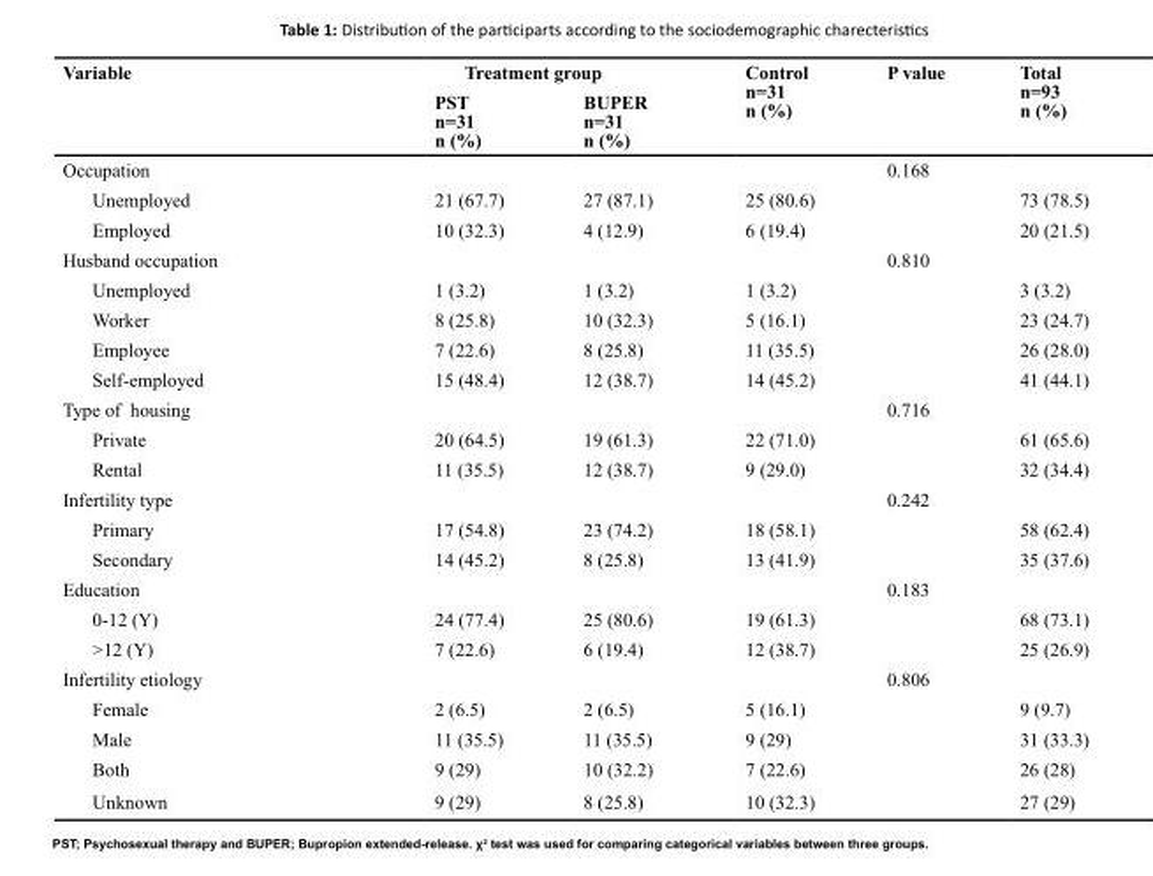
<table><thead><tr><td rowspan="2">Variable</td><td colspan="2">Treatment group</td><td rowspan="2">Control n=31 n (%)</td><td rowspan="2">P value</td><td rowspan="2">Total n=93 n (%)</td></tr><tr><td>PST n=31 n (%)</td><td>BUPER n=31 n (%)</td></tr></thead><tbody><tr><td>Occupation</td><td></td><td></td><td></td><td>0.168</td><td></td></tr><tr><td>Unemployed</td><td>21 (67.7)</td><td>27 (87.1)</td><td>25 (80.6)</td><td></td><td>73 (78.5)</td></tr><tr><td>Employed</td><td>10 (32.3)</td><td>4 (12.9)</td><td>6 (19.4)</td><td></td><td>20 (21.5)</td></tr><tr><td>Husband occupation</td><td></td><td></td><td></td><td>0.810</td><td></td></tr><tr><td>Unemployed</td><td>1 (3.2)</td><td>1 (3.2)</td><td>1 (3.2)</td><td></td><td>3 (3.2)</td></tr><tr><td>Worker</td><td>8 (25.8)</td><td>10 (32.3)</td><td>5 (16.1)</td><td></td><td>23 (24.7)</td></tr><tr><td>Employee</td><td>7 (22.6)</td><td>8 (25.8)</td><td>11 (35.5)</td><td></td><td>26 (28.0)</td></tr><tr><td>Self-employed</td><td>15 (48.4)</td><td>12 (38.7)</td><td>14 (45.2)</td><td></td><td>41 (44.1)</td></tr><tr><td>Type of housing</td><td></td><td></td><td></td><td>0.716</td><td></td></tr><tr><td>Private</td><td>20 (64.5)</td><td>19 (61.3)</td><td>22 (71.0)</td><td></td><td>61 (65.6)</td></tr><tr><td>Rental</td><td>11 (35.5)</td><td>12 (38.7)</td><td>9 (29.0)</td><td></td><td>32 (34.4)</td></tr><tr><td>Infertility type</td><td></td><td></td><td></td><td>0.242</td><td></td></tr><tr><td>Primary</td><td>17 (54.8)</td><td>23 (74.2)</td><td>18 (58.1)</td><td></td><td>58 (62.4)</td></tr><tr><td>Secondary</td><td>14 (45.2)</td><td>8 (25.8)</td><td>13 (41.9)</td><td></td><td>35 (37.6)</td></tr><tr><td>Education</td><td></td><td></td><td></td><td>0.183</td><td></td></tr><tr><td>0-12 (Y)</td><td>24 (77.4)</td><td>25 (80.6)</td><td>19 (61.3)</td><td></td><td>68 (73.1)</td></tr><tr><td>&gt;12 (Y)</td><td>7 (22.6)</td><td>6 (19.4)</td><td>12 (38.7)</td><td></td><td>25 (26.9)</td></tr><tr><td>Infertility etiology</td><td></td><td></td><td></td><td>0.806</td><td></td></tr><tr><td>Female</td><td>2 (6.5)</td><td>2 (6.5)</td><td>5 (16.1)</td><td></td><td>9 (9.7)</td></tr><tr><td>Male</td><td>11 (35.5)</td><td>11 (35.5)</td><td>9 (29)</td><td></td><td>31 (33.3)</td></tr><tr><td>Both</td><td>9 (29)</td><td>10 (32.2)</td><td>7 (22.6)</td><td></td><td>26 (28)</td></tr><tr><td>Unknown</td><td>9 (29)</td><td>8 (25.8)</td><td>10 (32.3)</td><td></td><td>27 (29)</td></tr></tbody></table>